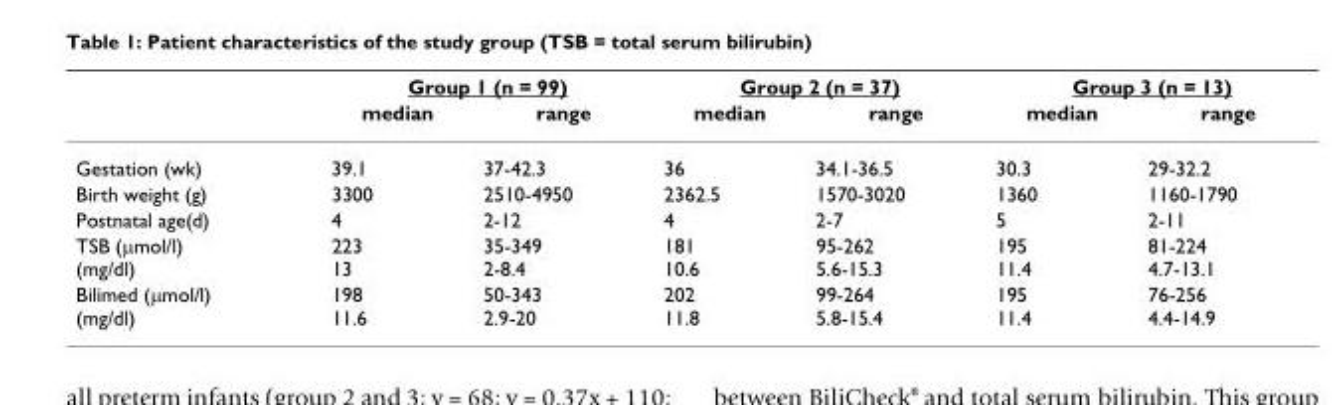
<table><thead><tr><td rowspan="2"></td><td colspan="2">Group 1 (n = 99)</td><td colspan="2">Group 2 (n = 37)</td><td colspan="2">Group 3 (n = 13)</td></tr><tr><td>median</td><td>range</td><td>median</td><td>range</td><td>median</td><td>range</td></tr></thead><tbody><tr><td>Gestation (wk)</td><td>39.1</td><td>37-42.3</td><td>36</td><td>34.1-36.5</td><td>30.3</td><td>29-32.2</td></tr><tr><td>Birth weight (g)</td><td>3300</td><td>2510-4950</td><td>2362.5</td><td>1570-3020</td><td>1360</td><td>1160-1790</td></tr><tr><td>Postnatal age(d)</td><td>4</td><td>2-12</td><td>4</td><td>2-7</td><td>5</td><td>2-11</td></tr><tr><td>TSB (μmol/l) (mg/dl)</td><td>223 13</td><td>35-349 2-8.4</td><td>181 10.6</td><td>95-262 5.6-15.3</td><td>195 11.4</td><td>81-224 4.7-13.1</td></tr><tr><td>Bilimed (μmol/l) (mg/dl)</td><td>198 11.6</td><td>50-343 2.9-20</td><td>202 11.8</td><td>99-264 5.8-15.4</td><td>195 11.4</td><td>76-256 4.4-14.9</td></tr></tbody></table>